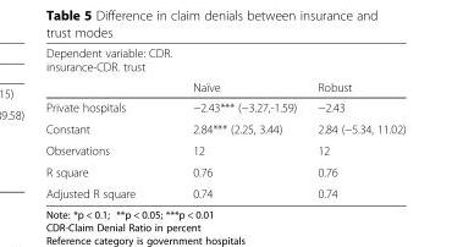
<table><thead><tr><td rowspan="2">Dependent variable: CDR. insurance-CDR. trust</td><td rowspan="2">Naïve</td><td rowspan="2">Robust</td></tr><tr></tr></thead><tbody><tr><td>Private hospitals</td><td>−2.43*** (−3.27,-1.59)</td><td>−2.43</td></tr><tr><td>Constant</td><td>2.84*** (2.25, 3.44)</td><td>2.84 (−5.34, 11.02)</td></tr><tr><td>Observations</td><td>12</td><td>12</td></tr><tr><td>R square</td><td>0.76</td><td>0.76</td></tr><tr><td>Adjusted R square</td><td>0.74</td><td>0.74</td></tr></tbody></table>